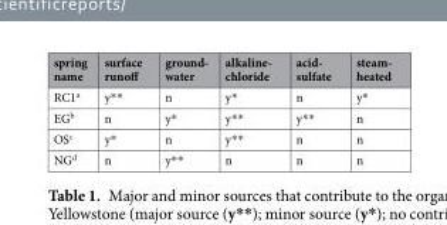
<table><thead><tr><td>spring name</td><td>surface runoff</td><td>ground- water</td><td>alkaline- chloride</td><td>acid- sulfate</td><td>steam- heated</td></tr></thead><tbody><tr><td>RC1<sup>a</sup></td><td>y**</td><td>n</td><td>y*</td><td>n</td><td>y*</td></tr><tr><td>EG<sup>b</sup></td><td>n</td><td>y*</td><td>y**</td><td>y**</td><td>n</td></tr><tr><td>OS<sup>c</sup></td><td>y*</td><td>n</td><td>y**</td><td>n</td><td>n</td></tr><tr><td>NG<sup>d</sup></td><td>n</td><td>y**</td><td>n</td><td>n</td><td>n</td></tr></tbody></table>